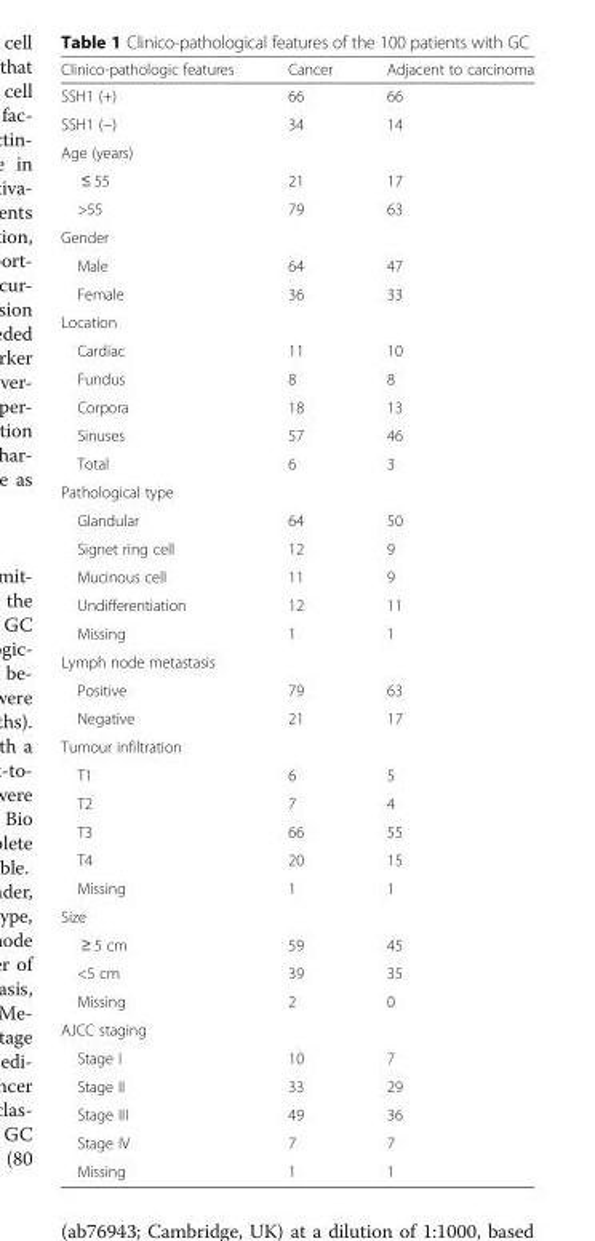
<table><thead><tr><td>Clinico-pathologic features</td><td>Cancer</td><td>Adjacent to carcinoma</td></tr></thead><tbody><tr><td>SSH1 (+)</td><td>66</td><td>66</td></tr><tr><td>SSH1 (−)</td><td>34</td><td>14</td></tr><tr><td colspan="3">Age (years)</td></tr><tr><td>≤ 55</td><td>21</td><td>17</td></tr><tr><td>&gt;55</td><td>79</td><td>63</td></tr><tr><td colspan="3">Gender</td></tr><tr><td>Male</td><td>64</td><td>47</td></tr><tr><td>Female</td><td>36</td><td>33</td></tr><tr><td colspan="3">Location</td></tr><tr><td>Cardiac</td><td>11</td><td>10</td></tr><tr><td>Fundus</td><td>8</td><td>8</td></tr><tr><td>Corpora</td><td>18</td><td>13</td></tr><tr><td>Sinuses</td><td>57</td><td>46</td></tr><tr><td>Total</td><td>6</td><td>3</td></tr><tr><td colspan="3">Pathological type</td></tr><tr><td>Glandular</td><td>64</td><td>50</td></tr><tr><td>Signet ring cell</td><td>12</td><td>9</td></tr><tr><td>Mucinous cell</td><td>11</td><td>9</td></tr><tr><td>Undifferentiation</td><td>12</td><td>11</td></tr><tr><td>Missing</td><td>1</td><td>1</td></tr><tr><td colspan="3">Lymph node metastasis</td></tr><tr><td>Positive</td><td>79</td><td>63</td></tr><tr><td>Negative</td><td>21</td><td>17</td></tr><tr><td colspan="3">Tumour infiltration</td></tr><tr><td>T1</td><td>6</td><td>5</td></tr><tr><td>T2</td><td>7</td><td>4</td></tr><tr><td>T3</td><td>66</td><td>55</td></tr><tr><td>T4</td><td>20</td><td>15</td></tr><tr><td>Missing</td><td>1</td><td>1</td></tr><tr><td colspan="3">Size</td></tr><tr><td>≥ 5 cm</td><td>59</td><td>45</td></tr><tr><td>&lt;5 cm</td><td>39</td><td>35</td></tr><tr><td>Missing</td><td>2</td><td>0</td></tr><tr><td colspan="3">AJCC staging</td></tr><tr><td>Stage I</td><td>10</td><td>7</td></tr><tr><td>Stage II</td><td>33</td><td>29</td></tr><tr><td>Stage III</td><td>49</td><td>36</td></tr><tr><td>Stage IV</td><td>7</td><td>7</td></tr><tr><td>Missing</td><td>1</td><td>1</td></tr></tbody></table>